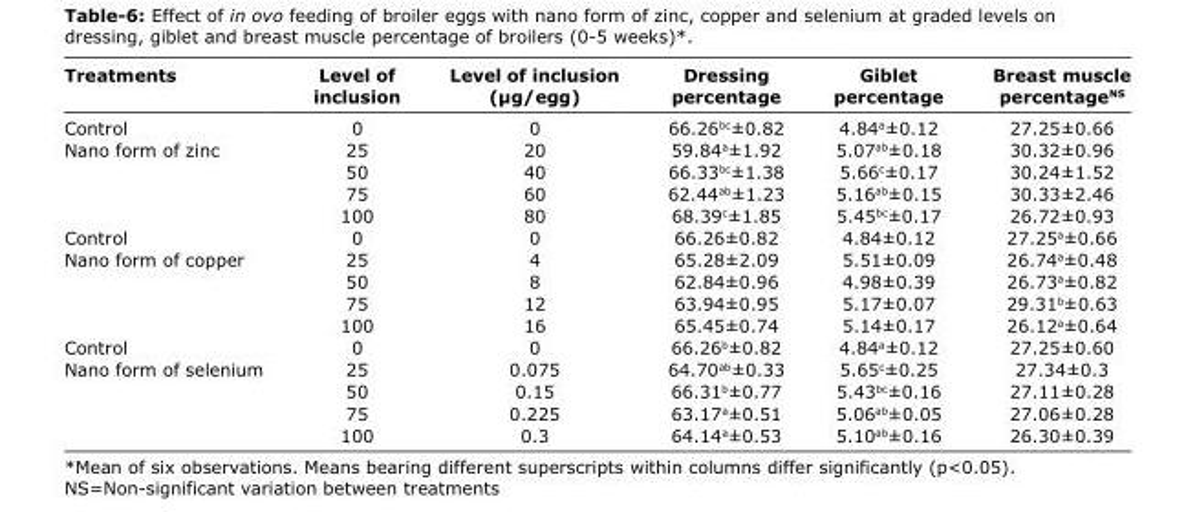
<table><thead><tr><td>Treatments</td><td>Level of inclusion</td><td>Level of inclusion (µg/egg)</td><td>Dressing percentage</td><td>Giblet percentage</td><td>Breast muscle percentage<sup>NS</sup></td></tr></thead><tbody><tr><td>Control</td><td>0</td><td>0</td><td>66.26<sup>bc</sup>±0.82</td><td>4.84<sup>a</sup>±0.12</td><td>27.25±0.66</td></tr><tr><td rowspan="4">Nano form of zinc</td><td>25</td><td>20</td><td>59.84<sup>a</sup>±1.92</td><td>5.07<sup>ab</sup>±0.18</td><td>30.32±0.96</td></tr><tr><td>50</td><td>40</td><td>66.33<sup>bc</sup>±1.38</td><td>5.66<sup>c</sup>±0.17</td><td>30.24±1.52</td></tr><tr><td>75</td><td>60</td><td>62.44<sup>ab</sup>±1.23</td><td>5.16<sup>ab</sup>±0.15</td><td>30.33±2.46</td></tr><tr><td>100</td><td>80</td><td>68.39<sup>c</sup>±1.85</td><td>5.45<sup>bc</sup>±0.17</td><td>26.72±0.93</td></tr><tr><td>Control</td><td>0</td><td>0</td><td>66.26±0.82</td><td>4.84±0.12</td><td>27.25<sup>a</sup>±0.66</td></tr><tr><td rowspan="4">Nano form of copper</td><td>25</td><td>4</td><td>65.28±2.09</td><td>5.51±0.09</td><td>26.74<sup>a</sup>±0.48</td></tr><tr><td>50</td><td>8</td><td>62.84±0.96</td><td>4.98±0.39</td><td>26.73<sup>a</sup>±0.82</td></tr><tr><td>75</td><td>12</td><td>63.94±0.95</td><td>5.17±0.07</td><td>29.31<sup>b</sup>±0.63</td></tr><tr><td>100</td><td>16</td><td>65.45±0.74</td><td>5.14±0.17</td><td>26.12<sup>a</sup>±0.64</td></tr><tr><td>Control</td><td>0</td><td>0</td><td>66.26<sup>b</sup>±0.82</td><td>4.84<sup>a</sup>±0.12</td><td>27.25±0.60</td></tr><tr><td rowspan="4">Nano form of selenium</td><td>25</td><td>0.075</td><td>64.70<sup>ab</sup>±0.33</td><td>5.65<sup>c</sup>±0.25</td><td>27.34±0.3</td></tr><tr><td>50</td><td>0.15</td><td>66.31<sup>b</sup>±0.77</td><td>5.43<sup>bc</sup>±0.16</td><td>27.11±0.28</td></tr><tr><td>75</td><td>0.225</td><td>63.17<sup>a</sup>±0.51</td><td>5.06<sup>ab</sup>±0.05</td><td>27.06±0.28</td></tr><tr><td>100</td><td>0.3</td><td>64.14<sup>a</sup>±0.53</td><td>5.10<sup>ab</sup>±0.16</td><td>26.30±0.39</td></tr></tbody></table>